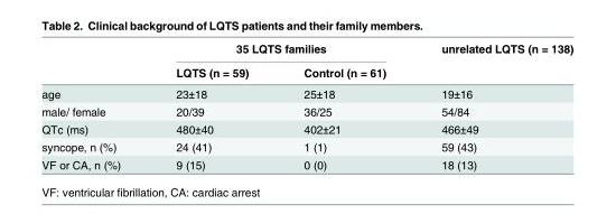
<table><thead><tr><td rowspan="2"></td><td colspan="2">35 LQTS families</td><td rowspan="2">unrelated LQTS (n = 138)</td></tr><tr><td>LQTS (n = 59)</td><td>Control (n = 61)</td></tr></thead><tbody><tr><td>age</td><td>23±18</td><td>25±18</td><td>19±16</td></tr><tr><td>male/ female</td><td>20/39</td><td>36/25</td><td>54/84</td></tr><tr><td>QTc (ms)</td><td>480±40</td><td>402±21</td><td>466±49</td></tr><tr><td>syncope, n (%)</td><td>24 (41)</td><td>1 (1)</td><td>59 (43)</td></tr><tr><td>VF or CA, n (%)</td><td>9 (15)</td><td>0 (0)</td><td>18 (13)</td></tr></tbody></table>